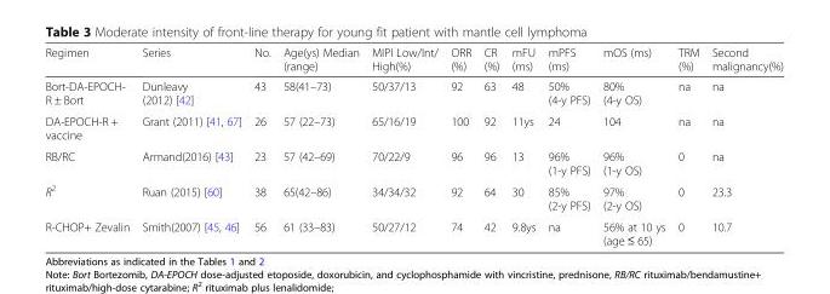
<table><thead><tr><td>Regimen</td><td>Series</td><td>No.</td><td>Age(ys) Median (range)</td><td>MIPI Low/Int/ High(%)</td><td>ORR (%)</td><td>CR (%)</td><td>mFU (ms)</td><td>mPFS (ms)</td><td>mOS (ms)</td><td>TRM (%)</td><td>Second malignancy(%)</td></tr></thead><tbody><tr><td>Bort-DA-EPOCH- R ± Bort</td><td>Dunleavy (2012) [42]</td><td>43</td><td>58(41–73)</td><td>50/37/13</td><td>92</td><td>63</td><td>48</td><td>50% (4-y PFS)</td><td>80% (4-y OS)</td><td>na</td><td>na</td></tr><tr><td>DA-EPOCH-R + vaccine</td><td>Grant (2011) [41, 67]</td><td>26</td><td>57 (22–73)</td><td>65/16/19</td><td>100</td><td>92</td><td>11ys</td><td>24</td><td>104</td><td>na</td><td>na</td></tr><tr><td>RB/RC</td><td>Armand(2016) [43]</td><td>23</td><td>57 (42–69)</td><td>70/22/9</td><td>96</td><td>96</td><td>13</td><td>96% (1-y PFS)</td><td>96% (1-y OS)</td><td>0</td><td>na</td></tr><tr><td>R<sup>2</sup></td><td>Ruan (2015) [60]</td><td>38</td><td>65(42–86)</td><td>34/34/32</td><td>92</td><td>64</td><td>30</td><td>85% (2-y PFS)</td><td>97% (2-y OS)</td><td>0</td><td>23.3</td></tr><tr><td>R-CHOP+ Zevalin</td><td>Smith(2007) [45, 46]</td><td>56</td><td>61 (33–83)</td><td>50/27/12</td><td>74</td><td>42</td><td>9.8ys</td><td>na</td><td>56% at 10 ys (age ≤ 65)</td><td>0</td><td>10.7</td></tr></tbody></table>